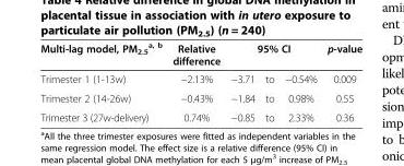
<table><thead><tr><td rowspan="2">Multi-lag model, PM<sub>2.5</sub> <sup>a, b</sup> Trimester 1 (1-13w)</td><td rowspan="2">Relative difference −2.13%</td><td colspan="3">95% CI</td><td rowspan="2">p-value 0.009</td></tr><tr><td>−3.71</td><td>to</td><td>−0.54%</td></tr></thead><tbody><tr><td>Trimester 2 (14-26w)</td><td>−0.43%</td><td>−1.84</td><td>to</td><td>0.98%</td><td>0.55</td></tr><tr><td>Trimester 3 (27w-delivery)</td><td>0.74%</td><td>−0.85</td><td>to</td><td>2.33%</td><td>0.36</td></tr></tbody></table>